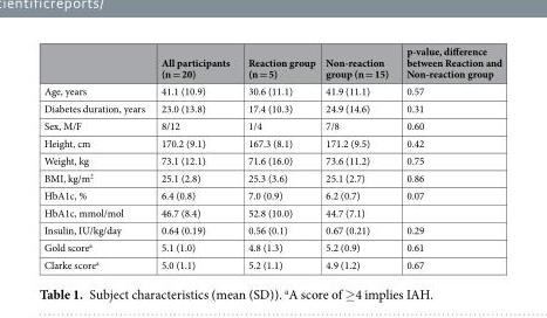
<table><thead><tr><td></td><td>All participants (n = 20)</td><td>Reaction group (n = 5)</td><td>Non-reaction group (n = 15)</td><td>p-value, difference between Reaction and Non-reaction group</td></tr></thead><tbody><tr><td>Age, years</td><td>41.1 (10.9)</td><td>30.6 (11.1)</td><td>41.9 (11.1)</td><td>0.57</td></tr><tr><td>Diabetes duration, years</td><td>23.0 (13.8)</td><td>17.4 (10.3)</td><td>24.9 (14.6)</td><td>0.31</td></tr><tr><td>Sex, M/F</td><td>8/12</td><td>1/4</td><td>7/8</td><td>0.60</td></tr><tr><td>Height, cm</td><td>170.2 (9.1)</td><td>167.3 (8.1)</td><td>171.2 (9.5)</td><td>0.42</td></tr><tr><td>Weight, kg</td><td>73.1 (12.1)</td><td>71.6 (16.0)</td><td>73.6 (11.2)</td><td>0.75</td></tr><tr><td>BMI, kg/m<sup>2</sup></td><td>25.1 (2.8)</td><td>25.3 (3.6)</td><td>25.1 (2.7)</td><td>0.86</td></tr><tr><td>HbA1c, %</td><td>6.4 (0.8)</td><td>7.0 (0.9)</td><td>6.2 (0.7)</td><td>0.07</td></tr><tr><td>HbA1c, mmol/mol</td><td>46.7 (8.4)</td><td>52.8 (10.0)</td><td>44.7 (7.1)</td><td></td></tr><tr><td>Insulin, IU/kg/day</td><td>0.64 (0.19)</td><td>0.56 (0.1)</td><td>0.67 (0.21)</td><td>0.29</td></tr><tr><td>Gold score<sup>a</sup></td><td>5.1 (1.0)</td><td>4.8 (1.3)</td><td>5.2 (0.9)</td><td>0.61</td></tr><tr><td>Clarke score<sup>a</sup></td><td>5.0 (1.1)</td><td>5.2 (1.1)</td><td>4.9 (1.2)</td><td>0.67</td></tr></tbody></table>